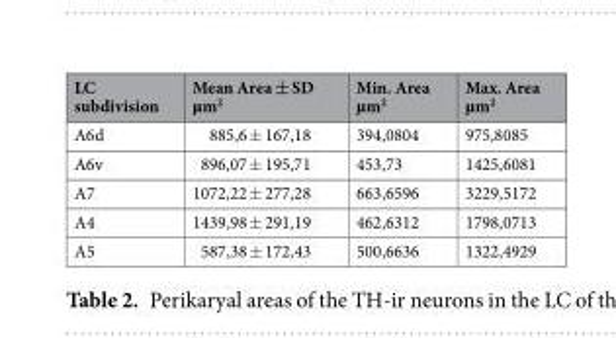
<table><thead><tr><td>LC subdivision</td><td>Mean Area ± SD µm<sup>2</sup></td><td>Min. Area µm<sup>2</sup></td><td>Max. Area µm<sup>2</sup></td></tr></thead><tbody><tr><td>A6d</td><td>885,6 ± 167,18</td><td>394,0804</td><td>975,8085</td></tr><tr><td>A6v</td><td>896,07 ± 195,71</td><td>453,73</td><td>1425,6081</td></tr><tr><td>A7</td><td>1072,22 ± 277,28</td><td>663,6596</td><td>3229,5172</td></tr><tr><td>A4</td><td>1439,98 ± 291,19</td><td>462,6312</td><td>1798,0713</td></tr><tr><td>A5</td><td>587,38 ± 172,43</td><td>500,6636</td><td>1322,4929</td></tr></tbody></table>